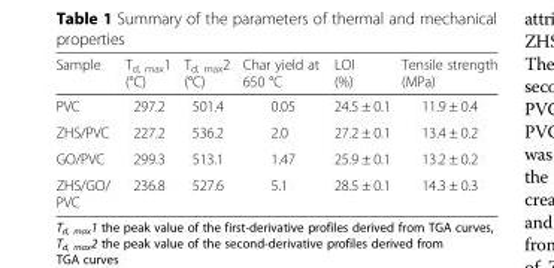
<table><thead><tr><td>Sample</td><td>T<sub>d, max</sub>1 (°C)</td><td>T<sub>d, max</sub>2 (°C)</td><td>Char yield at 650 °C</td><td>LOI (%)</td><td>Tensile strength (MPa)</td></tr></thead><tbody><tr><td>PVC</td><td>297.2</td><td>501.4</td><td>0.05</td><td>24.5 ± 0.1</td><td>11.9 ± 0.4</td></tr><tr><td>ZHS/PVC</td><td>227.2</td><td>536.2</td><td>2.0</td><td>27.2 ± 0.1</td><td>13.4 ± 0.2</td></tr><tr><td>GO/PVC</td><td>299.3</td><td>513.1</td><td>1.47</td><td>25.9 ± 0.1</td><td>13.2 ± 0.2</td></tr><tr><td>ZHS/GO/ PVC</td><td>236.8</td><td>527.6</td><td>5.1</td><td>28.5 ± 0.1</td><td>14.3 ± 0.3</td></tr></tbody></table>